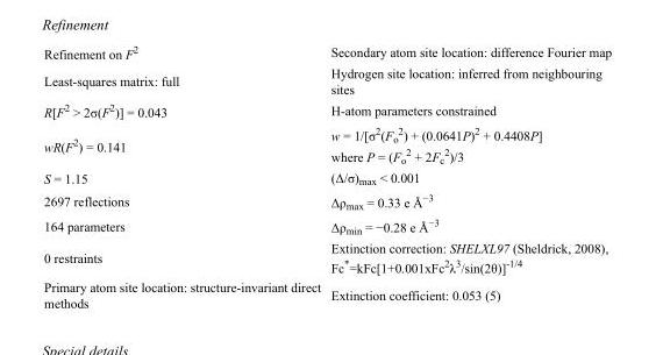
<table><tbody><tr><td>Refinement on F<sup>2</sup></td><td>Secondary atom site location: difference Fourier map</td></tr><tr><td>Least-squares matrix: full</td><td>Hydrogen site location: inferred from neighbouring sites</td></tr><tr><td>R[F<sup>2</sup> &gt; 2σ(F<sup>2</sup>)] = 0.043</td><td>H-atom parameters constrained</td></tr><tr><td>wR(F<sup>2</sup>) = 0.141</td><td>w = 1/[σ<sup>2</sup>(F<sub>o</sub> <sup>2</sup>) + (0.0641P)<sup>2</sup> + 0.4408P] where P = (F<sub>o</sub> <sup>2</sup> + 2F<sub>c</sub> <sup>2</sup>)/3</td></tr><tr><td>S = 1.15</td><td>(Δ/σ)<sub>max</sub> &lt; 0.001</td></tr><tr><td>2697 reflections</td><td>Δρ<sub>max</sub> = 0.33 e Å<sup>−3</sup></td></tr><tr><td>164 parameters</td><td>Δρ<sub>min</sub> = −0.28 e Å<sup>−3</sup></td></tr><tr><td>0 restraints</td><td>Extinction correction: SHELXL97 (Sheldrick, 2008), Fc*=kFc[1+0.001xFc<sup>2</sup>λ<sup>3</sup>/sin(2θ)]<sup>-1/4</sup></td></tr><tr><td>Primary atom site location: structure-invariant direct methods</td><td>Extinction coefficient: 0.053 (5)</td></tr></tbody></table>